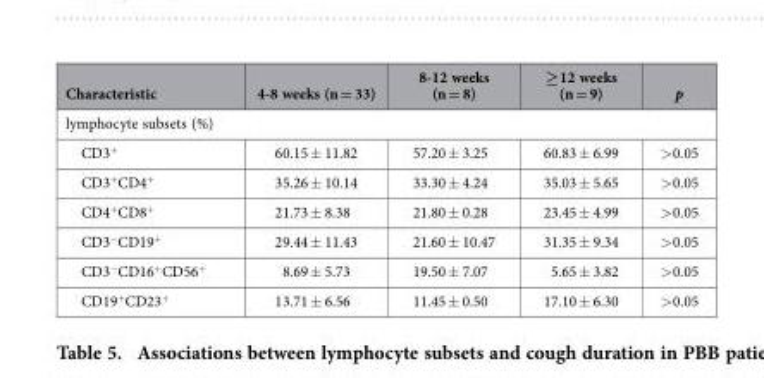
<table><thead><tr><td>Characteristic</td><td>4-8 weeks (n = 33)</td><td>8-12 weeks (n = 8)</td><td>≥ 12 weeks (n = 9)</td><td>p</td></tr></thead><tbody><tr><td colspan="5">lymphocyte subsets (%)</td></tr><tr><td>CD3<sup>+</sup></td><td>60.15 ± 11.82</td><td>57.20 ± 3.25</td><td>60.83 ± 6.99</td><td>&gt; 0.05</td></tr><tr><td>CD3<sup>+</sup>CD4<sup>+</sup></td><td>35.26 ± 10.14</td><td>33.30 ± 4.24</td><td>35.03 ± 5.65</td><td>&gt; 0.05</td></tr><tr><td>CD4<sup>+</sup>CD8<sup>+</sup></td><td>21.73 ± 8.38</td><td>21.80 ± 0.28</td><td>23.45 ± 4.99</td><td>&gt; 0.05</td></tr><tr><td>CD3<sup>−</sup>CD19<sup>+</sup></td><td>29.44 ± 11.43</td><td>21.60 ± 10.47</td><td>31.35 ± 9.34</td><td>&gt; 0.05</td></tr><tr><td>CD3<sup>−</sup>CD16<sup>+</sup>CD56<sup>+</sup></td><td>8.69 ± 5.73</td><td>19.50 ± 7.07</td><td>5.65 ± 3.82</td><td>&gt; 0.05</td></tr><tr><td>CD19<sup>+</sup>CD23<sup>+</sup></td><td>13.71 ± 6.56</td><td>11.45 ± 0.50</td><td>17.10 ± 6.30</td><td>&gt; 0.05</td></tr></tbody></table>